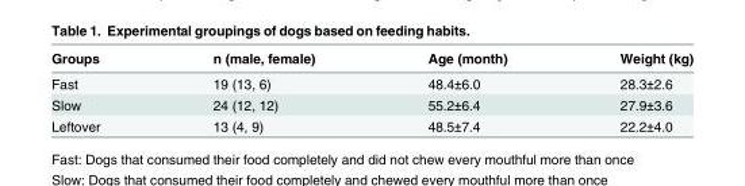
<table><thead><tr><td>Groups</td><td>n (male, female)</td><td>Age (month)</td><td>Weight (kg)</td></tr></thead><tbody><tr><td>Fast</td><td>19 (13, 6)</td><td>48.4±6.0</td><td>28.3±2.6</td></tr><tr><td>Slow</td><td>24 (12, 12)</td><td>55.2±6.4</td><td>27.9±3.6</td></tr><tr><td>Leftover</td><td>13 (4, 9)</td><td>48.5±7.4</td><td>22.2±4.0</td></tr></tbody></table>